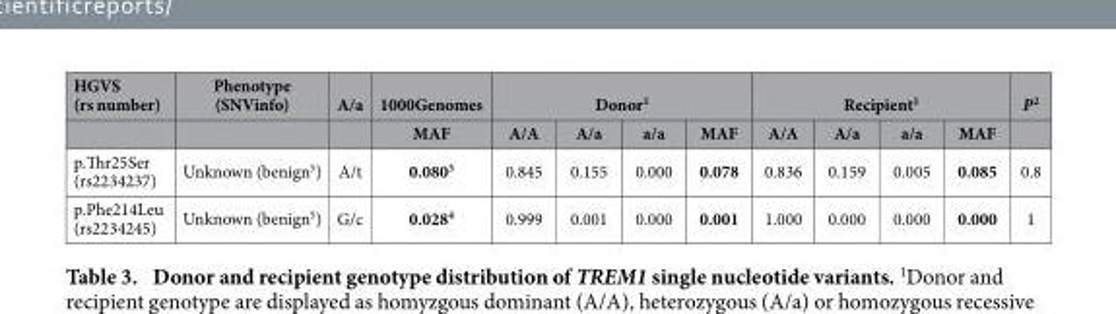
<table><thead><tr><td rowspan="2">HGVS (rs number)</td><td rowspan="2">Phenotype (SNVinfo)</td><td rowspan="2">A/a</td><td rowspan="2">1000Genomes MAF</td><td colspan="4">Donor<sup>1</sup></td><td colspan="4">Recipient<sup>1</sup></td><td rowspan="2">P<sup>2</sup></td></tr><tr><td>A/A</td><td>A/a</td><td>a/a</td><td>MAF</td><td>A/A</td><td>A/a</td><td>a/a</td><td>MAF</td></tr></thead><tbody><tr><td>p.Thr25Ser (rs2234237)</td><td>Unknown (benign<sup>5</sup>)</td><td>A/t</td><td>0.080<sup>3</sup></td><td>0.845</td><td>0.155</td><td>0.000</td><td>0.078</td><td>0.836</td><td>0.159</td><td>0.005</td><td>0.085</td><td>0.8</td></tr><tr><td>p.Phe214Leu (rs2234245)</td><td>Unknown (benign<sup>5</sup>)</td><td>G/c</td><td>0.028<sup>4</sup></td><td>0.999</td><td>0.001</td><td>0.000</td><td>0.001</td><td>1.000</td><td>0.000</td><td>0.000</td><td>0.000</td><td>1</td></tr></tbody></table>